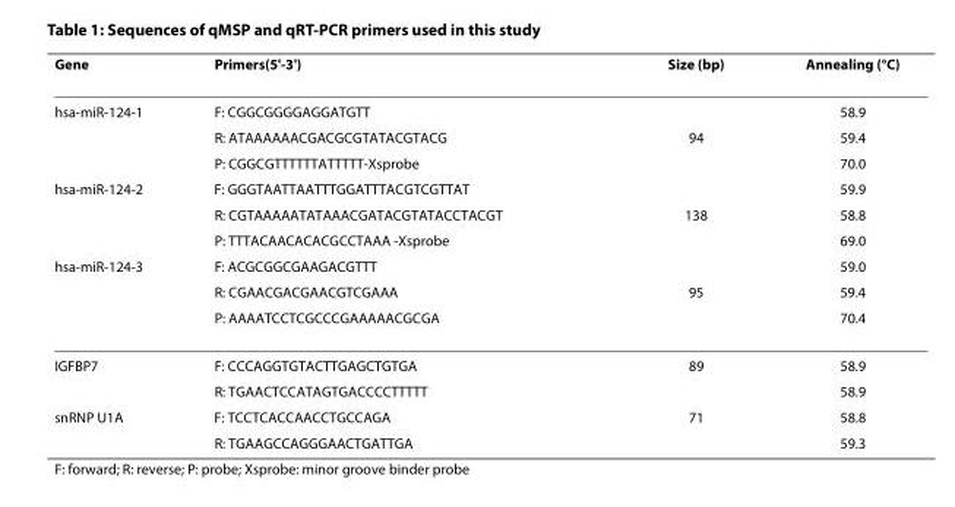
<table><thead><tr><td>Gene</td><td>Primers(5&#x27;-3&#x27;)</td><td>Size (bp)</td><td>Annealing (°C)</td></tr></thead><tbody><tr><td rowspan="3">hsa-miR-124-1</td><td>F: CGGCGGGGAGGATGTT</td><td></td><td>58.9</td></tr><tr><td>R: ATAAAAAACGACGCGTATACGTACG</td><td>94</td><td>59.4</td></tr><tr><td>P: CGGCGTTTTTTATTTTT-Xsprobe</td><td></td><td>70.0</td></tr><tr><td rowspan="3">hsa-miR-124-2</td><td>F: GGGTAATTAATTTGGATTTACGTCGTTAT</td><td></td><td>59.9</td></tr><tr><td>R: CGTAAAAATATAAACGATACGTATACCTACGT</td><td>138</td><td>58.8</td></tr><tr><td>P: TTTACAACACACGCCTAAA -Xsprobe</td><td></td><td>69.0</td></tr><tr><td rowspan="3">hsa-miR-124-3</td><td>F: ACGCGGCGAAGACGTTT</td><td></td><td>59.0</td></tr><tr><td>R: CGAACGACGAACGTCGAAA</td><td>95</td><td>59.4</td></tr><tr><td>P: AAAATCCTCGCCCGAAAAACGCGA</td><td></td><td>70.4</td></tr><tr><td rowspan="2">IGFBP7</td><td>F: CCCAGGTGTACTTGAGCTGTGA</td><td>89</td><td>58.9</td></tr><tr><td>R: TGAACTCCATAGTGACCCCTTTTT</td><td></td><td>58.9</td></tr><tr><td rowspan="2">snRNP U1A</td><td>F: TCCTCACCAACCTGCCAGA</td><td>71</td><td>58.8</td></tr><tr><td>R: TGAAGCCAGGGAACTGATTGA</td><td></td><td>59.3</td></tr></tbody></table>